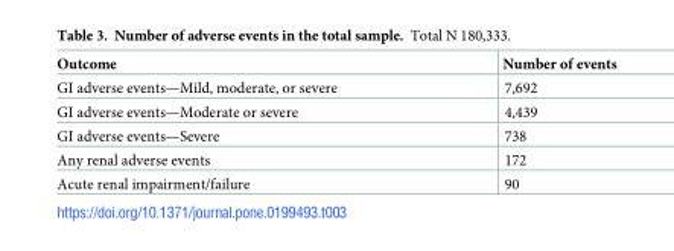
<table><thead><tr><td>Outcome</td><td>Number of events</td></tr></thead><tbody><tr><td>GI adverse events—Mild, moderate, or severe</td><td>7,692</td></tr><tr><td>GI adverse events—Moderate or severe</td><td>4,439</td></tr><tr><td>GI adverse events—Severe</td><td>738</td></tr><tr><td>Any renal adverse events</td><td>172</td></tr><tr><td>Acute renal impairment/failure</td><td>90</td></tr></tbody></table>